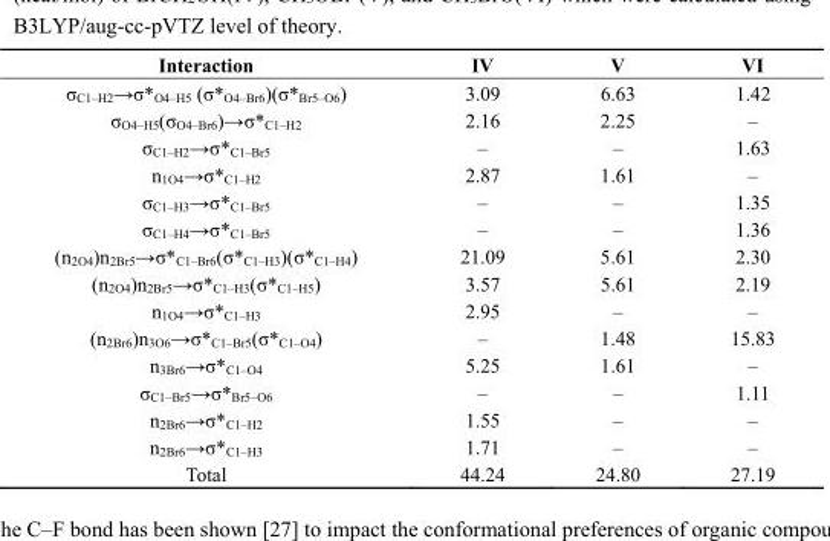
<table><thead><tr><td>Interaction</td><td>IV</td><td>V</td><td>VI</td></tr></thead><tbody><tr><td>σ<sub>C1–H2</sub>→σ*<sub>O4–H5</sub> (σ*<sub>O4–Br6</sub>)(σ*<sub>Br5–O6</sub>)</td><td>3.09</td><td>6.63</td><td>1.42</td></tr><tr><td>σ<sub>O4–H5</sub>(σ<sub>O4–Br6</sub>)→σ*<sub>C1–H2</sub></td><td>2.16</td><td>2.25</td><td>–</td></tr><tr><td>σ<sub>C1–H2</sub>→σ*<sub>C1–Br5</sub></td><td>–</td><td>–</td><td>1.63</td></tr><tr><td>n<sub>1O4</sub>→σ*<sub>C1–H2</sub></td><td>2.87</td><td>1.61</td><td>–</td></tr><tr><td>σ<sub>C1–H3</sub>→σ*<sub>C1–Br5</sub></td><td>–</td><td>–</td><td>1.35</td></tr><tr><td>σ<sub>C1–H4</sub>→σ*<sub>C1–Br5</sub></td><td>–</td><td>–</td><td>1.36</td></tr><tr><td>(n<sub>2O4</sub>)n<sub>2Br5</sub>→σ*<sub>C1–Br6</sub>(σ*<sub>C1–H3</sub>)(σ*<sub>C1–H4</sub>)</td><td>21.09</td><td>5.61</td><td>2.30</td></tr><tr><td>(n<sub>2O4</sub>)n<sub>2Br5</sub>→σ*<sub>C1–H3</sub>(σ*<sub>C1–H5</sub>)</td><td>3.57</td><td>5.61</td><td>2.19</td></tr><tr><td>n<sub>1O4</sub>→σ*<sub>C1–H3</sub></td><td>2.95</td><td>–</td><td>–</td></tr><tr><td>(n<sub>2Br6</sub>)n<sub>3O6</sub>→σ*<sub>C1–Br5</sub>(σ*<sub>C1–O4</sub>)</td><td>–</td><td>1.48</td><td>15.83</td></tr><tr><td>n<sub>3Br6</sub>→σ*<sub>C1–O4</sub></td><td>5.25</td><td>1.61</td><td>–</td></tr><tr><td>σ<sub>C1–Br5</sub>→σ*<sub>Br5–O6</sub></td><td>–</td><td>–</td><td>1.11</td></tr><tr><td>n<sub>2Br6</sub>→σ*<sub>C1–H2</sub></td><td>1.55</td><td>–</td><td>–</td></tr><tr><td>n<sub>2Br6</sub>→σ*<sub>C1–H3</sub></td><td>1.71</td><td>–</td><td>–</td></tr><tr><td>Total</td><td>44.24</td><td>24.80</td><td>27.19</td></tr></tbody></table>